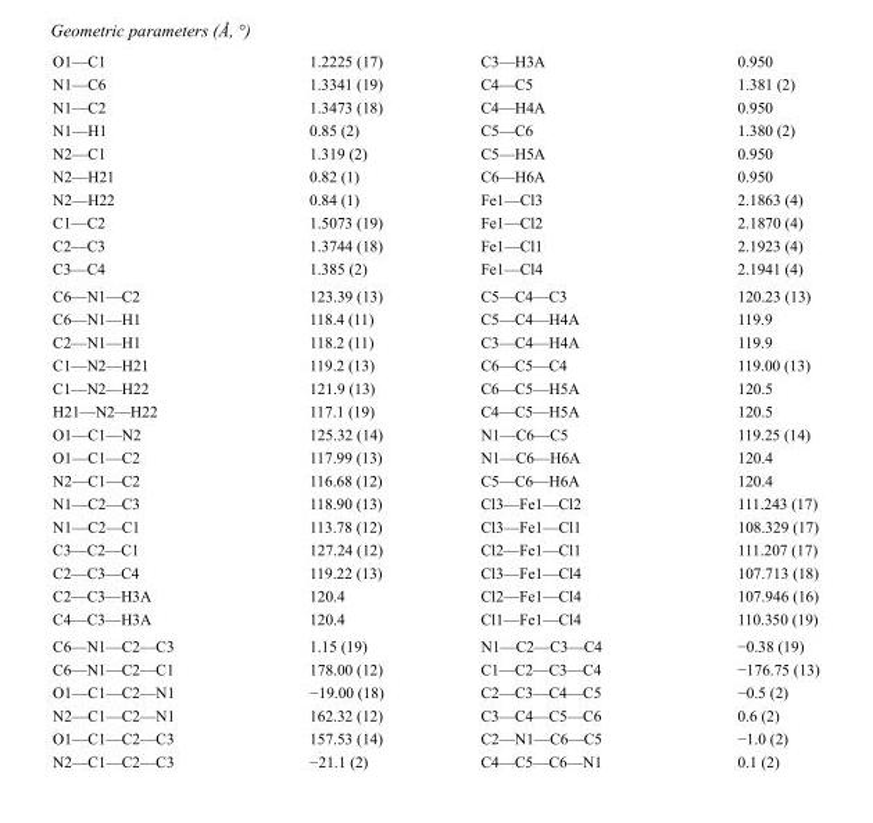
<table><tbody><tr><td>O1—C1</td><td>1.2225 (17)</td><td>C3—H3A</td><td>0.950</td></tr><tr><td>N1—C6</td><td>1.3341 (19)</td><td>C4—C5</td><td>1.381 (2)</td></tr><tr><td>N1—C2</td><td>1.3473 (18)</td><td>C4—H4A</td><td>0.950</td></tr><tr><td>N1—H1</td><td>0.85 (2)</td><td>C5—C6</td><td>1.380 (2)</td></tr><tr><td>N2—C1</td><td>1.319 (2)</td><td>C5—H5A</td><td>0.950</td></tr><tr><td>N2—H21</td><td>0.82 (1)</td><td>C6—H6A</td><td>0.950</td></tr><tr><td>N2—H22</td><td>0.84 (1)</td><td>Fe1—Cl3</td><td>2.1863 (4)</td></tr><tr><td>C1—C2</td><td>1.5073 (19)</td><td>Fe1—Cl2</td><td>2.1870 (4)</td></tr><tr><td>C2—C3</td><td>1.3744 (18)</td><td>Fe1—Cl1</td><td>2.1923 (4)</td></tr><tr><td>C3—C4</td><td>1.385 (2)</td><td>Fe1—Cl4</td><td>2.1941 (4)</td></tr><tr><td>C6—N1—C2</td><td>123.39 (13)</td><td>C5—C4—C3</td><td>120.23 (13)</td></tr><tr><td>C6—N1—H1</td><td>118.4 (11)</td><td>C5—C4—H4A</td><td>119.9</td></tr><tr><td>C2—N1—H1</td><td>118.2 (11)</td><td>C3—C4—H4A</td><td>119.9</td></tr><tr><td>C1—N2—H21</td><td>119.2 (13)</td><td>C6—C5—C4</td><td>119.00 (13)</td></tr><tr><td>C1—N2—H22</td><td>121.9 (13)</td><td>C6—C5—H5A</td><td>120.5</td></tr><tr><td>H21—N2—H22</td><td>117.1 (19)</td><td>C4—C5—H5A</td><td>120.5</td></tr><tr><td>O1—C1—N2</td><td>125.32 (14)</td><td>N1—C6—C5</td><td>119.25 (14)</td></tr><tr><td>O1—C1—C2</td><td>117.99 (13)</td><td>N1—C6—H6A</td><td>120.4</td></tr><tr><td>N2—C1—C2</td><td>116.68 (12)</td><td>C5—C6—H6A</td><td>120.4</td></tr><tr><td>N1—C2—C3</td><td>118.90 (13)</td><td>Cl3—Fe1—Cl2</td><td>111.243 (17)</td></tr><tr><td>N1—C2—C1</td><td>113.78 (12)</td><td>Cl3—Fe1—Cl1</td><td>108.329 (17)</td></tr><tr><td>C3—C2—C1</td><td>127.24 (12)</td><td>Cl2—Fe1—Cl1</td><td>111.207 (17)</td></tr><tr><td>C2—C3—C4</td><td>119.22 (13)</td><td>Cl3—Fe1—Cl4</td><td>107.713 (18)</td></tr><tr><td>C2—C3—H3A</td><td>120.4</td><td>Cl2—Fe1—Cl4</td><td>107.946 (16)</td></tr><tr><td>C4—C3—H3A</td><td>120.4</td><td>Cl1—Fe1—Cl4</td><td>110.350 (19)</td></tr><tr><td>C6—N1—C2—C3</td><td>1.15 (19)</td><td>N1—C2—C3—C4</td><td>−0.38 (19)</td></tr><tr><td>C6—N1—C2—C1</td><td>178.00 (12)</td><td>C1—C2—C3—C4</td><td>−176.75 (13)</td></tr><tr><td>O1—C1—C2—N1</td><td>−19.00 (18)</td><td>C2—C3—C4—C5</td><td>−0.5 (2)</td></tr><tr><td>N2—C1—C2—N1</td><td>162.32 (12)</td><td>C3—C4—C5—C6</td><td>0.6 (2)</td></tr><tr><td>O1—C1—C2—C3</td><td>157.53 (14)</td><td>C2—N1—C6—C5</td><td>−1.0 (2)</td></tr><tr><td>N2—C1—C2—C3</td><td>−21.1 (2)</td><td>C4—C5—C6—N1</td><td>0.1 (2)</td></tr></tbody></table>